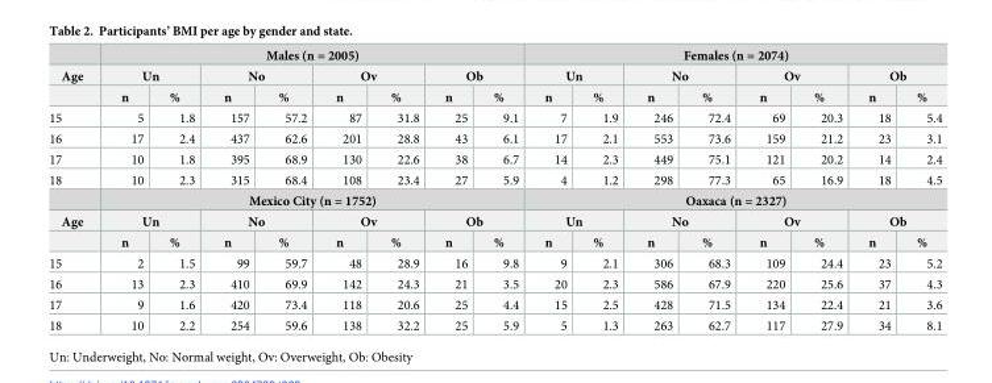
<table><thead><tr><td rowspan="3">Age</td><td colspan="8">Males (n = 2005)</td><td colspan="8">Females (n = 2074)</td></tr><tr><td colspan="2">Un</td><td colspan="2">No</td><td colspan="2">Ov</td><td colspan="2">Ob</td><td colspan="2">Un</td><td colspan="2">No</td><td colspan="2">Ov</td><td colspan="2">Ob</td></tr><tr><td>n</td><td>%</td><td>n</td><td>%</td><td>n</td><td>%</td><td>n</td><td>%</td><td>n</td><td>%</td><td>n</td><td>%</td><td>n</td><td>%</td><td>n</td><td>%</td></tr></thead><tbody><tr><td>15</td><td>5</td><td>1.8</td><td>157</td><td>57.2</td><td>87</td><td>31.8</td><td>25</td><td>9.1</td><td>7</td><td>1.9</td><td>246</td><td>72.4</td><td>69</td><td>20.3</td><td>18</td><td>5.4</td></tr><tr><td>16</td><td>17</td><td>2.4</td><td>437</td><td>62.6</td><td>201</td><td>28.8</td><td>43</td><td>6.1</td><td>17</td><td>2.1</td><td>553</td><td>73.6</td><td>159</td><td>21.2</td><td>23</td><td>3.1</td></tr><tr><td>17</td><td>10</td><td>1.8</td><td>395</td><td>68.9</td><td>130</td><td>22.6</td><td>38</td><td>6.7</td><td>14</td><td>2.3</td><td>449</td><td>75.1</td><td>121</td><td>20.2</td><td>14</td><td>2.4</td></tr><tr><td rowspan="2">18</td><td>10</td><td>2.3</td><td>315</td><td>68.4</td><td>108</td><td>23.4</td><td>27</td><td>5.9</td><td>4</td><td>1.2</td><td>298</td><td>77.3</td><td>65</td><td>16.9</td><td>18</td><td>4.5</td></tr><tr><td colspan="8">Mexico City (n = 1752)</td><td colspan="8">Oaxaca (n = 2327)</td></tr><tr><td rowspan="2">Age</td><td colspan="2">Un</td><td colspan="2">No</td><td colspan="2">Ov</td><td colspan="2">Ob</td><td colspan="2">Un</td><td colspan="2">No</td><td colspan="2">Ov</td><td colspan="2">Ob</td></tr><tr><td>n</td><td>%</td><td>n</td><td>%</td><td>n</td><td>%</td><td>n</td><td>%</td><td>n</td><td>%</td><td>n</td><td>%</td><td>n</td><td>%</td><td>n</td><td>%</td></tr><tr><td>15</td><td>2</td><td>1.5</td><td>99</td><td>59.7</td><td>48</td><td>28.9</td><td>16</td><td>9.8</td><td>9</td><td>2.1</td><td>306</td><td>68.3</td><td>109</td><td>24.4</td><td>23</td><td>5.2</td></tr><tr><td>16</td><td>13</td><td>2.3</td><td>410</td><td>69.9</td><td>142</td><td>24.3</td><td>21</td><td>3.5</td><td>20</td><td>2.3</td><td>586</td><td>67.9</td><td>220</td><td>25.6</td><td>37</td><td>4.3</td></tr><tr><td>17</td><td>9</td><td>1.6</td><td>420</td><td>73.4</td><td>118</td><td>20.6</td><td>25</td><td>4.4</td><td>15</td><td>2.5</td><td>428</td><td>71.5</td><td>134</td><td>22.4</td><td>21</td><td>3.6</td></tr><tr><td>18</td><td>10</td><td>2.2</td><td>254</td><td>59.6</td><td>138</td><td>32.2</td><td>25</td><td>5.9</td><td>5</td><td>1.3</td><td>263</td><td>62.7</td><td>117</td><td>27.9</td><td>34</td><td>8.1</td></tr></tbody></table>